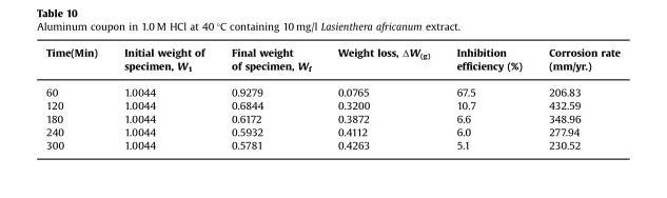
<table><thead><tr><td>Time(Min)</td><td>Initial weight of specimen, W<sub>1</sub></td><td>Final weight of specimen, W<sub>f</sub></td><td>Weight loss, ΔW(g)</td><td>Inhibition efficiency (%)</td><td>Corrosion rate (mm/yr.)</td></tr></thead><tbody><tr><td>60</td><td>1.0044</td><td>0.9279</td><td>0.0765</td><td>67.5</td><td>206.83</td></tr><tr><td>120</td><td>1.0044</td><td>0.6844</td><td>0.3200</td><td>10.7</td><td>432.59</td></tr><tr><td>180</td><td>1.0044</td><td>0.6172</td><td>0.3872</td><td>6.6</td><td>348.96</td></tr><tr><td>240</td><td>1.0044</td><td>0.5932</td><td>0.4112</td><td>6.0</td><td>277.94</td></tr><tr><td>300</td><td>1.0044</td><td>0.5781</td><td>0.4263</td><td>5.1</td><td>230.52</td></tr></tbody></table>